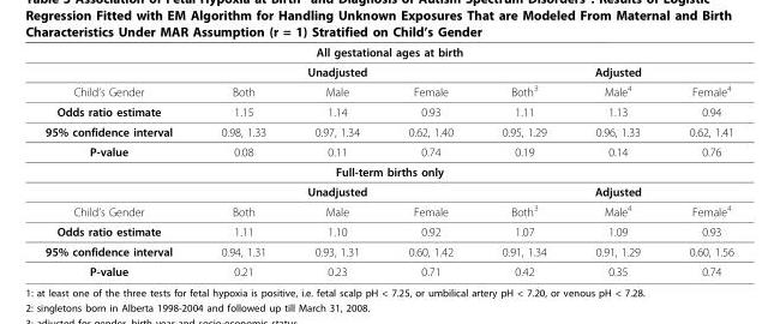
<table><thead><tr><td colspan="7">All gestational ages at birth</td></tr><tr><td rowspan="2">Child’s Gender</td><td colspan="3">Unadjusted</td><td colspan="3">Adjusted</td></tr><tr><td>Both</td><td>Male</td><td>Female</td><td>Both<sup>3</sup></td><td>Male<sup>4</sup></td><td>Female<sup>4</sup></td></tr></thead><tbody><tr><td>Odds ratio estimate</td><td>1.15</td><td>1.14</td><td>0.93</td><td>1.11</td><td>1.13</td><td>0.94</td></tr><tr><td>95% confidence interval</td><td>0.98, 1.33</td><td>0.97, 1.34</td><td>0.62, 1.40</td><td>0.95, 1.29</td><td>0.96, 1.33</td><td>0.62, 1.41</td></tr><tr><td>P-value</td><td>0.08</td><td>0.11</td><td>0.74</td><td>0.19</td><td>0.14</td><td>0.76</td></tr><tr><td colspan="7">Full-term births only</td></tr><tr><td></td><td colspan="3">Unadjusted</td><td colspan="3">Adjusted</td></tr><tr><td>Child’s Gender</td><td>Both</td><td>Male</td><td>Female</td><td>Both<sup>3</sup></td><td>Male<sup>4</sup></td><td>Female<sup>4</sup></td></tr><tr><td>Odds ratio estimate</td><td>1.11</td><td>1.10</td><td>0.92</td><td>1.07</td><td>1.09</td><td>0.93</td></tr><tr><td>95% confidence interval</td><td>0.94, 1.31</td><td>0.93, 1.31</td><td>0.60, 1.42</td><td>0.91, 1.34</td><td>0.91, 1.29</td><td>0.60, 1.56</td></tr><tr><td>P-value</td><td>0.21</td><td>0.23</td><td>0.71</td><td>0.42</td><td>0.35</td><td>0.74</td></tr></tbody></table>